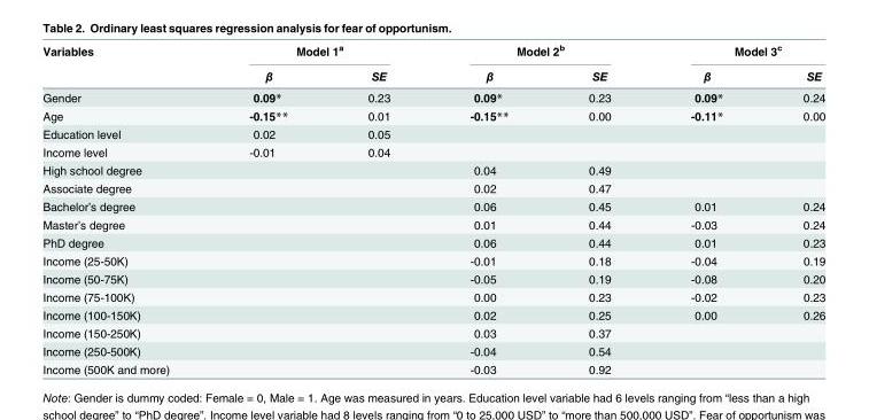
<table><thead><tr><td rowspan="2">Variables</td><td colspan="2">Model 1<sup>a</sup></td><td colspan="2">Model 2<sup>b</sup></td><td colspan="2">Model 3<sup>c</sup></td></tr><tr><td>β</td><td>SE</td><td>β</td><td>SE</td><td>β</td><td>SE</td></tr></thead><tbody><tr><td>Gender</td><td>0.09*</td><td>0.23</td><td>0.09*</td><td>0.23</td><td>0.09*</td><td>0.24</td></tr><tr><td>Age</td><td>-0.15**</td><td>0.01</td><td>-0.15**</td><td>0.00</td><td>-0.11*</td><td>0.00</td></tr><tr><td>Education level</td><td>0.02</td><td>0.05</td><td></td><td></td><td></td><td></td></tr><tr><td>Income level</td><td>-0.01</td><td>0.04</td><td></td><td></td><td></td><td></td></tr><tr><td>High school degree</td><td></td><td></td><td>0.04</td><td>0.49</td><td></td><td></td></tr><tr><td>Associate degree</td><td></td><td></td><td>0.02</td><td>0.47</td><td></td><td></td></tr><tr><td>Bachelor’s degree</td><td></td><td></td><td>0.06</td><td>0.45</td><td>0.01</td><td>0.24</td></tr><tr><td>Master’s degree</td><td></td><td></td><td>0.01</td><td>0.44</td><td>-0.03</td><td>0.24</td></tr><tr><td>PhD degree</td><td></td><td></td><td>0.06</td><td>0.44</td><td>0.01</td><td>0.23</td></tr><tr><td>Income (25-50K)</td><td></td><td></td><td>-0.01</td><td>0.18</td><td>-0.04</td><td>0.19</td></tr><tr><td>Income (50-75K)</td><td></td><td></td><td>-0.05</td><td>0.19</td><td>-0.08</td><td>0.20</td></tr><tr><td>Income (75-100K)</td><td></td><td></td><td>0.00</td><td>0.23</td><td>-0.02</td><td>0.23</td></tr><tr><td>Income (100-150K)</td><td></td><td></td><td>0.02</td><td>0.25</td><td>0.00</td><td>0.26</td></tr><tr><td>Income (150-250K)</td><td></td><td></td><td>0.03</td><td>0.37</td><td></td><td></td></tr><tr><td>Income (250-500K)</td><td></td><td></td><td>-0.04</td><td>0.54</td><td></td><td></td></tr><tr><td>Income (500K and more)</td><td></td><td></td><td>-0.03</td><td>0.92</td><td></td><td></td></tr></tbody></table>